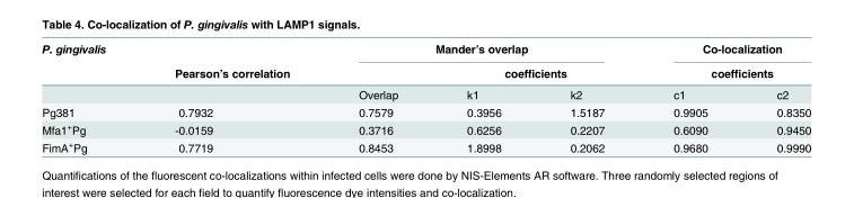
<table><thead><tr><td rowspan="3">P. gingivalis</td><td rowspan="3">Pearson’s correlation</td><td colspan="3">Mander’s overlap</td><td rowspan="2" colspan="2">Co-localization coefficients</td></tr><tr><td rowspan="2">Overlap</td><td colspan="2">coefficients</td></tr><tr><td>k1</td><td>k2</td><td>c1</td><td>c2</td></tr></thead><tbody><tr><td>Pg381</td><td>0.7932</td><td>0.7579</td><td>0.3956</td><td>1.5187</td><td>0.9905</td><td>0.8350</td></tr><tr><td>Mfa1<sup>+</sup>Pg</td><td>-0.0159</td><td>0.3716</td><td>0.6256</td><td>0.2207</td><td>0.6090</td><td>0.9450</td></tr><tr><td>FimA<sup>+</sup>Pg</td><td>0.7719</td><td>0.8453</td><td>1.8998</td><td>0.2062</td><td>0.9680</td><td>0.9990</td></tr></tbody></table>